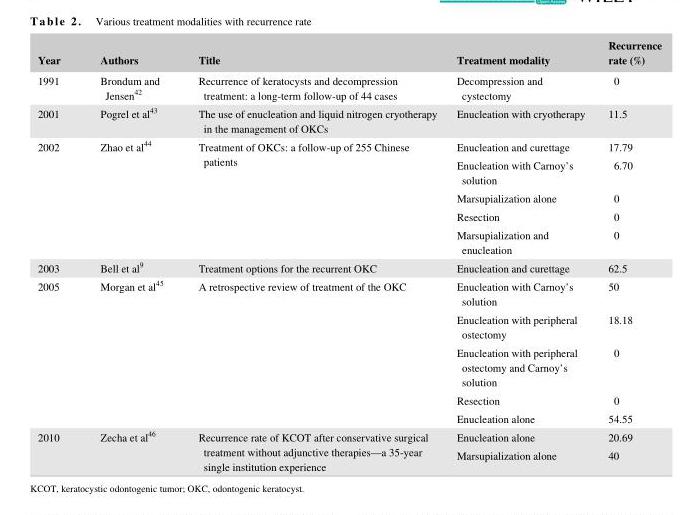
<table><thead><tr><td>Year</td><td>Authors</td><td>Title</td><td>Treatment modality</td><td>Recurrence rate (%)</td></tr></thead><tbody><tr><td>1991</td><td>Brondum and Jensen<sup>42</sup></td><td>Recurrence of keratocysts and decompression treatment: a long- term follow- up of 44 cases</td><td>Decompression and cystectomy</td><td>0</td></tr><tr><td>2001</td><td>Pogrel et al<sup>43</sup></td><td>The use of enucleation and liquid nitrogen cryotherapy in the management of OKCs</td><td>Enucleation with cryotherapy</td><td>11.5</td></tr><tr><td rowspan="5">2002</td><td rowspan="5">Zhao et al<sup>44</sup></td><td rowspan="5">Treatment of OKCs: a follow- up of 255 Chinese patients</td><td>Enucleation and curettage</td><td>17.79</td></tr><tr><td>Enucleation with Carnoy’s solution</td><td>6.70</td></tr><tr><td>Marsupialization alone</td><td>0</td></tr><tr><td>Resection</td><td>0</td></tr><tr><td>Marsupialization and enucleation</td><td>0</td></tr><tr><td>2003</td><td>Bell et al<sup>9</sup></td><td>Treatment options for the recurrent OKC</td><td>Enucleation and curettage</td><td>62.5</td></tr><tr><td rowspan="5">2005</td><td rowspan="5">Morgan et al<sup>45</sup></td><td rowspan="5">A retrospective review of treatment of the OKC</td><td>Enucleation with Carnoy’s solution</td><td>50</td></tr><tr><td>Enucleation with peripheral ostectomy</td><td>18.18</td></tr><tr><td>Enucleation with peripheral ostectomy and Carnoy’s solution</td><td>0</td></tr><tr><td>Resection</td><td>0</td></tr><tr><td>Enucleation alone</td><td>54.55</td></tr><tr><td rowspan="2">2010</td><td rowspan="2">Zecha et al<sup>46</sup></td><td rowspan="2">Recurrence rate of KCOT after conservative surgical treatment without adjunctive therapies—a 35- year single institution experience</td><td>Enucleation alone</td><td>20.69</td></tr><tr><td>Marsupialization alone</td><td>40</td></tr></tbody></table>